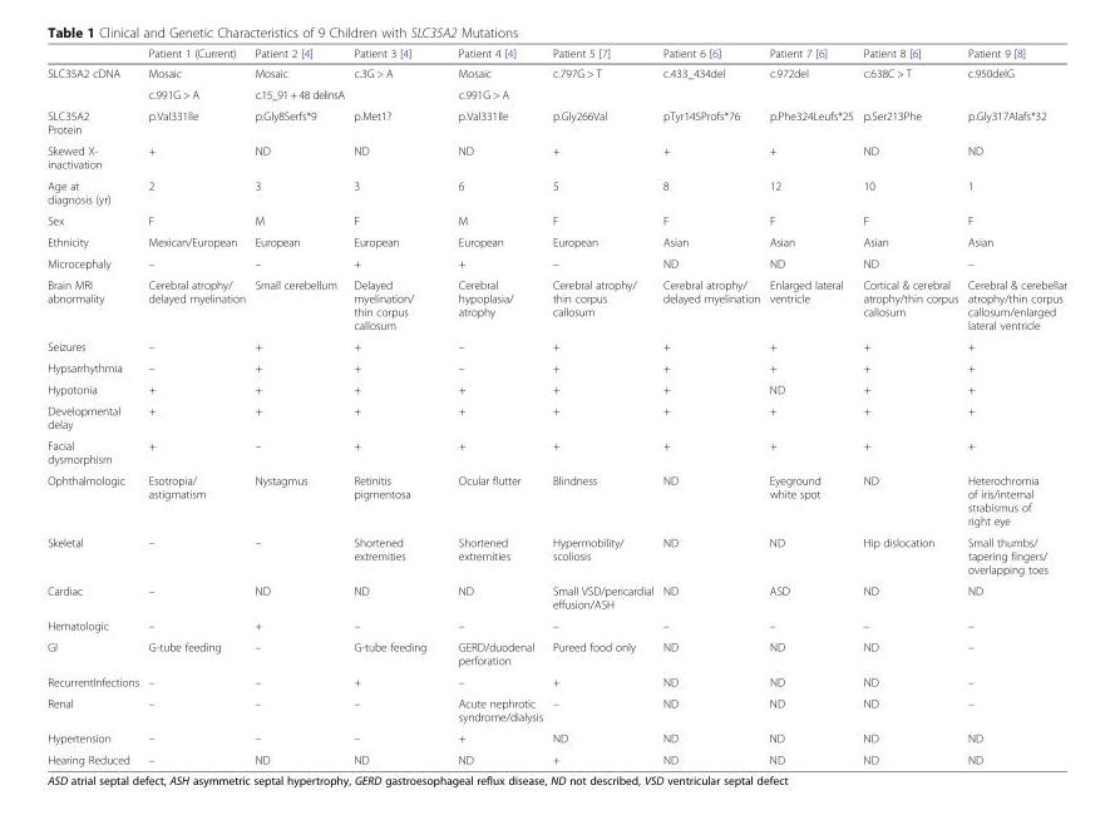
<table><thead><tr><td></td><td>Patient 1 (Current)</td><td>Patient 2 [4]</td><td>Patient 3 [4]</td><td>Patient 4 [4]</td><td>Patient 5 [7]</td><td>Patient 6 [6]</td><td>Patient 7 [6]</td><td>Patient 8 [6]</td><td>Patient 9 [8]</td></tr></thead><tbody><tr><td rowspan="2">SLC35A2 cDNA</td><td>Mosaic</td><td>Mosaic</td><td>c.3G &gt; A</td><td>Mosaic</td><td>c.797G &gt; T</td><td>c.433_434del</td><td>c.972del</td><td>c.638C &gt; T</td><td>c.950delG</td></tr><tr><td>c.991G &gt; A</td><td>c.15_91 + 48 delinsA</td><td></td><td>c.991G &gt; A</td><td></td><td></td><td></td><td></td><td></td></tr><tr><td>SLC35A2 Protein</td><td>p.Val331lle</td><td>p.Gly8Serfs*9</td><td>p.Met1?</td><td>p.Val331lle</td><td>p.Gly266Val</td><td>pTyr145Profs*76</td><td>p.Phe324Leufs*25</td><td>p.Ser213Phe</td><td>p.Gly317Alafs*32</td></tr><tr><td>Skewed X- inactivation</td><td>+</td><td>ND</td><td>ND</td><td>ND</td><td>+</td><td>+</td><td>+</td><td>ND</td><td>ND</td></tr><tr><td>Age at diagnosis (yr)</td><td>2</td><td>3</td><td>3</td><td>6</td><td>5</td><td>8</td><td>12</td><td>10</td><td>1</td></tr><tr><td>Sex</td><td>F</td><td>M</td><td>F</td><td>M</td><td>F</td><td>F</td><td>F</td><td>F</td><td>F</td></tr><tr><td>Ethnicity</td><td>Mexican/European</td><td>European</td><td>European</td><td>European</td><td>European</td><td>Asian</td><td>Asian</td><td>Asian</td><td>Asian</td></tr><tr><td>Microcephaly</td><td>–</td><td>–</td><td>+</td><td>+</td><td>–</td><td>ND</td><td>ND</td><td>ND</td><td>–</td></tr><tr><td>Brain MRI abnormality</td><td>Cerebral atrophy/ delayed myelination</td><td>Small cerebellum</td><td>Delayed myelination/ thin corpus callosum</td><td>Cerebral hypoplasia/ atrophy</td><td>Cerebral atrophy/ thin corpus callosum</td><td>Cerebral atrophy/ delayed myelination</td><td>Enlarged lateral ventricle</td><td>Cortical &amp; cerebral atrophy/thin corpus callosum</td><td>Cerebral &amp; cerebellar atrophy/thin corpus callosum/enlarged lateral ventricle</td></tr><tr><td>Seizures</td><td>–</td><td>+</td><td>+</td><td>–</td><td>+</td><td>+</td><td>+</td><td>+</td><td>+</td></tr><tr><td>Hypsarrhythmia</td><td>–</td><td>+</td><td>+</td><td>–</td><td>+</td><td>+</td><td>+</td><td>+</td><td>+</td></tr><tr><td>Hypotonia</td><td>+</td><td>+</td><td>+</td><td>+</td><td>+</td><td>+</td><td>ND</td><td>+</td><td>+</td></tr><tr><td>Developmental delay</td><td>+</td><td>+</td><td>+</td><td>+</td><td>+</td><td>+</td><td>+</td><td>+</td><td>+</td></tr><tr><td>Facial dysmorphism</td><td>+</td><td>–</td><td>+</td><td>+</td><td>+</td><td>+</td><td>+</td><td>+</td><td>+</td></tr><tr><td>Ophthalmologic</td><td>Esotropia/ astigmatism</td><td>Nystagmus</td><td>Retinitis pigmentosa</td><td>Ocular flutter</td><td>Blindness</td><td>ND</td><td>Eyeground white spot</td><td>ND</td><td>Heterochromia of iris/internal strabismus of right eye</td></tr><tr><td>Skeletal</td><td>–</td><td>–</td><td>Shortened extremities</td><td>Shortened extremities</td><td>Hypermobility/ scoliosis</td><td>ND</td><td>ND</td><td>Hip dislocation</td><td>Small thumbs/ tapering fingers/ overlapping toes</td></tr><tr><td>Cardiac</td><td>–</td><td>ND</td><td>ND</td><td>ND</td><td>Small VSD/pericardial effusion/ASH</td><td>ND</td><td>ASD</td><td>ND</td><td>ND</td></tr><tr><td>Hematologic</td><td>–</td><td>+</td><td>–</td><td>–</td><td>–</td><td>–</td><td>–</td><td>–</td><td>–</td></tr><tr><td>GI</td><td>G-tube feeding</td><td>–</td><td>G-tube feeding</td><td>GERD/duodenal perforation</td><td>Pureed food only</td><td>ND</td><td>ND</td><td>ND</td><td>–</td></tr><tr><td>RecurrentInfections</td><td>–</td><td>–</td><td>+</td><td>–</td><td>+</td><td>ND</td><td>ND</td><td>ND</td><td>–</td></tr><tr><td>Renal</td><td>–</td><td>–</td><td>–</td><td>Acute nephrotic syndrome/dialysis</td><td>–</td><td>ND</td><td>ND</td><td>ND</td><td>–</td></tr><tr><td>Hypertension</td><td>–</td><td>–</td><td>–</td><td>+</td><td>ND</td><td>ND</td><td>ND</td><td>ND</td><td>ND</td></tr><tr><td>Hearing Reduced</td><td>–</td><td>ND</td><td>ND</td><td>ND</td><td>+</td><td>ND</td><td>ND</td><td>ND</td><td>ND</td></tr></tbody></table>